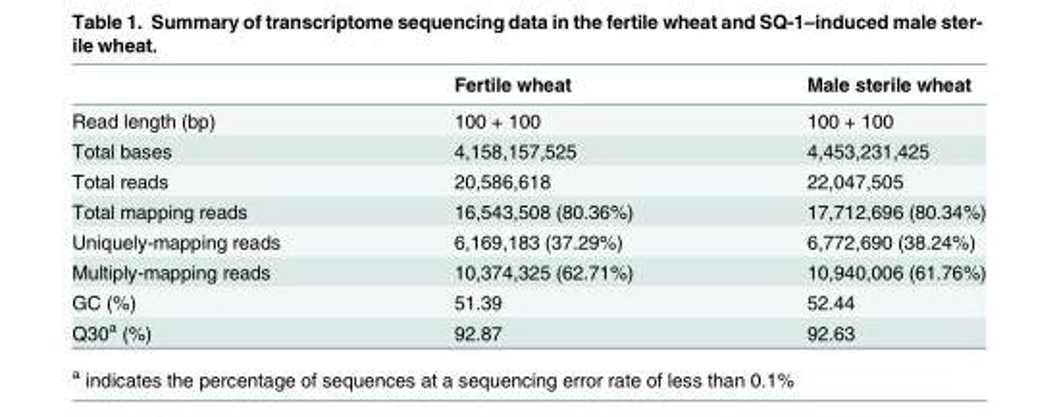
<table><thead><tr><td></td><td>Fertile wheat</td><td>Male sterile wheat</td></tr></thead><tbody><tr><td>Read length (bp)</td><td>100 + 100</td><td>100 + 100</td></tr><tr><td>Total bases</td><td>4,158,157,525</td><td>4,453,231,425</td></tr><tr><td>Total reads</td><td>20,586,618</td><td>22,047,505</td></tr><tr><td>Total mapping reads</td><td>16,543,508 (80.36%)</td><td>17,712,696 (80.34%)</td></tr><tr><td>Uniquely-mapping reads</td><td>6,169,183 (37.29%)</td><td>6,772,690 (38.24%)</td></tr><tr><td>Multiply-mapping reads</td><td>10,374,325 (62.71%)</td><td>10,940,006 (61.76%)</td></tr><tr><td>GC (%)</td><td>51.39</td><td>52.44</td></tr><tr><td>Q30<sup>a</sup> (%)</td><td>92.87</td><td>92.63</td></tr></tbody></table>